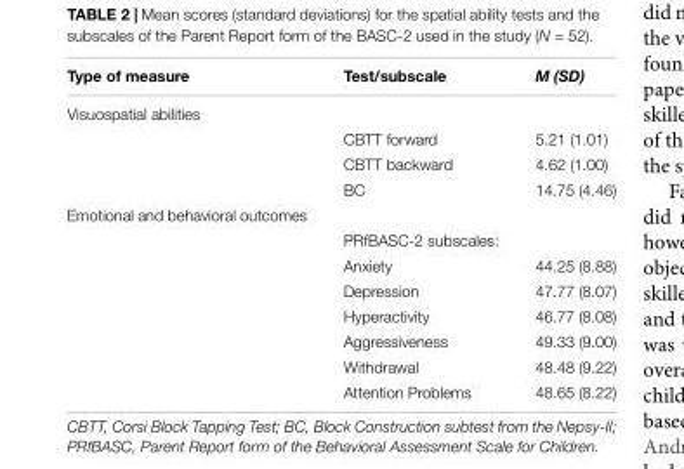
<table><thead><tr><td>Type of measure</td><td>Test/subscale</td><td>M (SD)</td></tr></thead><tbody><tr><td colspan="3">Visuospatial abilities</td></tr><tr><td></td><td>CBTT forward</td><td>5.21 (1.01)</td></tr><tr><td></td><td>CBTT backward</td><td>4.62 (1.00)</td></tr><tr><td></td><td>BC</td><td>14.75 (4.46)</td></tr><tr><td colspan="3">Emotional and behavioral outcomes</td></tr><tr><td></td><td>PRfBASC-2 subscales:</td><td></td></tr><tr><td></td><td>Anxiety</td><td>44.25 (8.88)</td></tr><tr><td></td><td>Depression</td><td>47.77 (8.07)</td></tr><tr><td></td><td>Hyperactivity</td><td>46.77 (8.08)</td></tr><tr><td></td><td>Aggressiveness</td><td>49.33 (9.00)</td></tr><tr><td></td><td>Withdrawal</td><td>48.48 (9.22)</td></tr><tr><td></td><td>Attention Problems</td><td>48.65 (8.22)</td></tr></tbody></table>